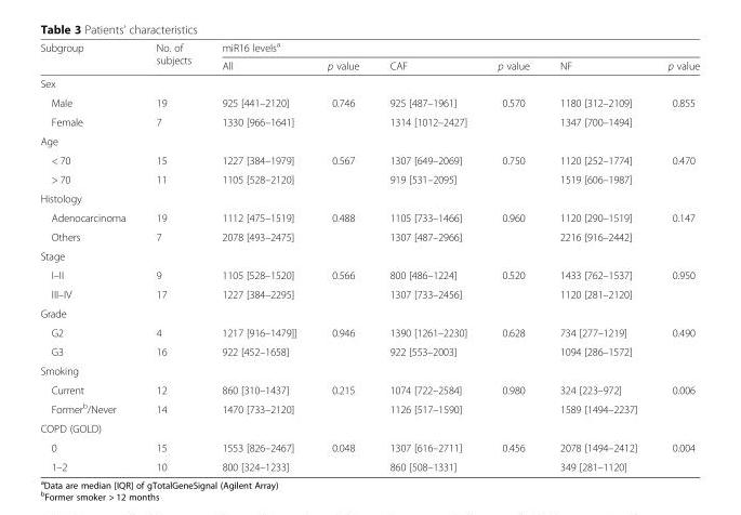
<table><thead><tr><td rowspan="2">Subgroup</td><td rowspan="2">No. of subjects</td><td colspan="6">miR16 levels<sup>a</sup></td></tr><tr><td>All</td><td>p value</td><td>CAF</td><td>p value</td><td>NF</td><td>p value</td></tr></thead><tbody><tr><td colspan="8">Sex</td></tr><tr><td>Male</td><td>19</td><td>925 [441–2120]</td><td>0.746</td><td>925 [487–1961]</td><td>0.570</td><td>1180 [312–2109]</td><td>0.855</td></tr><tr><td>Female</td><td>7</td><td>1330 [966–1641]</td><td></td><td>1314 [1012–2427]</td><td></td><td>1347 [700–1494]</td><td></td></tr><tr><td colspan="8">Age</td></tr><tr><td>&lt; 70</td><td>15</td><td>1227 [384–1979]</td><td>0.567</td><td>1307 [649–2069]</td><td>0.750</td><td>1120 [252–1774]</td><td>0.470</td></tr><tr><td>&gt; 70</td><td>11</td><td>1105 [528–2120]</td><td></td><td>919 [531–2095]</td><td></td><td>1519 [606–1987]</td><td></td></tr><tr><td colspan="8">Histology</td></tr><tr><td>Adenocarcinoma</td><td>19</td><td>1112 [475–1519]</td><td>0.488</td><td>1105 [733–1466]</td><td>0.960</td><td>1120 [290–1519]</td><td>0.147</td></tr><tr><td>Others</td><td>7</td><td>2078 [493–2475]</td><td></td><td>1307 [487–2966]</td><td></td><td>2216 [916–2442]</td><td></td></tr><tr><td colspan="8">Stage</td></tr><tr><td>I–II</td><td>9</td><td>1105 [528–1520]</td><td>0.566</td><td>800 [486–1224]</td><td>0.520</td><td>1433 [762–1537]</td><td>0.950</td></tr><tr><td>III–IV</td><td>17</td><td>1227 [384–2295]</td><td></td><td>1307 [733–2456]</td><td></td><td>1120 [281–2120]</td><td></td></tr><tr><td colspan="8">Grade</td></tr><tr><td>G2</td><td>4</td><td>1217 [916–1479]]</td><td>0.946</td><td>1390 [1261–2230]</td><td>0.628</td><td>734 [277–1219]</td><td>0.490</td></tr><tr><td>G3</td><td>16</td><td>922 [452–1658]</td><td></td><td>922 [553–2003]</td><td></td><td>1094 [286–1572]</td><td></td></tr><tr><td colspan="8">Smoking</td></tr><tr><td>Current</td><td>12</td><td>860 [310–1437]</td><td>0.215</td><td>1074 [722–2584]</td><td>0.980</td><td>324 [223–972]</td><td>0.006</td></tr><tr><td>Former<sup>b</sup>/Never</td><td>14</td><td>1470 [733–2120]</td><td></td><td>1126 [517–1590]</td><td></td><td>1589 [1494–2237]</td><td></td></tr><tr><td colspan="8">COPD (GOLD)</td></tr><tr><td>0</td><td>15</td><td>1553 [826–2467]</td><td>0.048</td><td>1307 [616–2711]</td><td>0.456</td><td>2078 [1494–2412]</td><td>0.004</td></tr><tr><td>1–2</td><td>10</td><td>800 [324–1233]</td><td></td><td>860 [508–1331]</td><td></td><td>349 [281–1120]</td><td></td></tr></tbody></table>